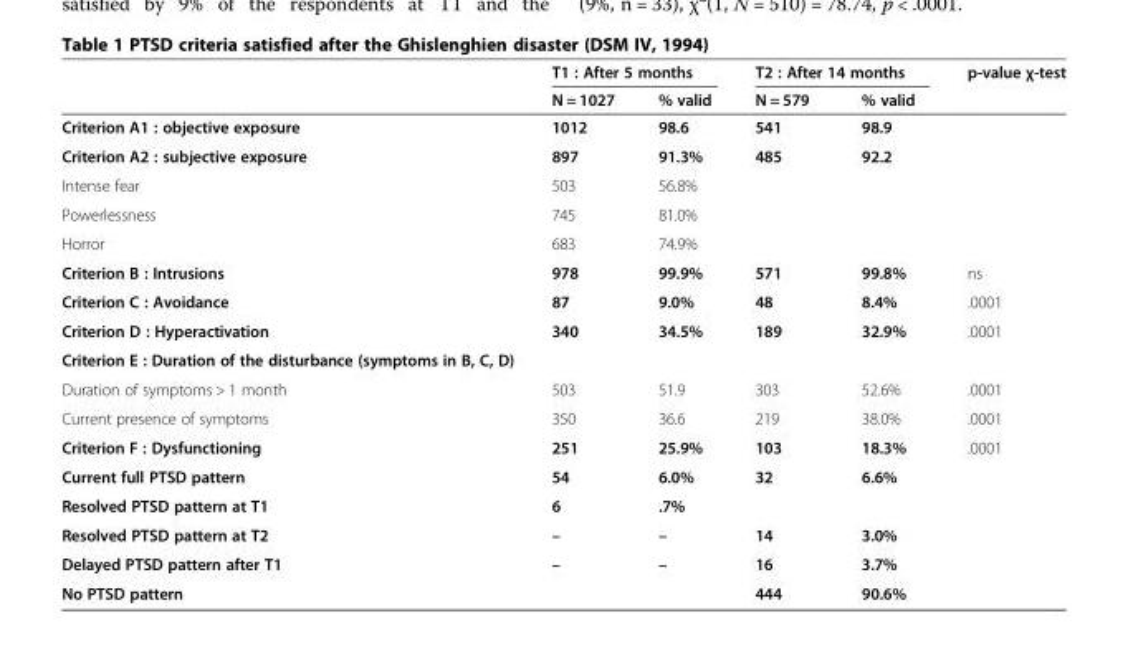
<table><thead><tr><td rowspan="2"></td><td colspan="2">T1 : After 5 months</td><td colspan="2">T2 : After 14 months</td><td rowspan="2">p-value χ-test</td></tr><tr><td>N = 1027</td><td>% valid</td><td>N = 579</td><td>% valid</td></tr></thead><tbody><tr><td>Criterion A1 : objective exposure</td><td>1012</td><td>98.6</td><td>541</td><td>98.9</td><td></td></tr><tr><td>Criterion A2 : subjective exposure</td><td>897</td><td>91.3%</td><td>485</td><td>92.2</td><td></td></tr><tr><td>Intense fear</td><td>503</td><td>56.8%</td><td></td><td></td><td></td></tr><tr><td>Powerlessness</td><td>745</td><td>81.0%</td><td></td><td></td><td></td></tr><tr><td>Horror</td><td>683</td><td>74.9%</td><td></td><td></td><td></td></tr><tr><td>Criterion B : Intrusions</td><td>978</td><td>99.9%</td><td>571</td><td>99.8%</td><td>ns</td></tr><tr><td>Criterion C : Avoidance</td><td>87</td><td>9.0%</td><td>48</td><td>8.4%</td><td>.0001</td></tr><tr><td>Criterion D : Hyperactivation</td><td>340</td><td>34.5%</td><td>189</td><td>32.9%</td><td>.0001</td></tr><tr><td colspan="6">Criterion E : Duration of the disturbance (symptoms in B, C, D)</td></tr><tr><td>Duration of symptoms &gt; 1 month</td><td>503</td><td>51.9</td><td>303</td><td>52.6%</td><td>.0001</td></tr><tr><td>Current presence of symptoms</td><td>350</td><td>36.6</td><td>219</td><td>38.0%</td><td>.0001</td></tr><tr><td>Criterion F : Dysfunctioning</td><td>251</td><td>25.9%</td><td>103</td><td>18.3%</td><td>.0001</td></tr><tr><td>Current full PTSD pattern</td><td>54</td><td>6.0%</td><td>32</td><td>6.6%</td><td></td></tr><tr><td>Resolved PTSD pattern at T1</td><td>6</td><td>.7%</td><td></td><td></td><td></td></tr><tr><td>Resolved PTSD pattern at T2</td><td>–</td><td>–</td><td>14</td><td>3.0%</td><td></td></tr><tr><td>Delayed PTSD pattern after T1</td><td>–</td><td>–</td><td>16</td><td>3.7%</td><td></td></tr><tr><td>No PTSD pattern</td><td></td><td></td><td>444</td><td>90.6%</td><td></td></tr></tbody></table>